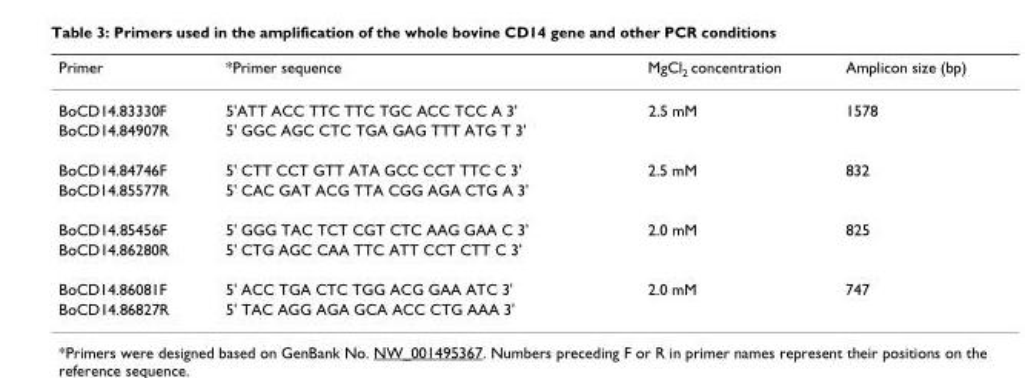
<table><thead><tr><td>Primer</td><td>*Primer sequence</td><td>MgCl<sub>2</sub> concentration</td><td>Amplicon size (bp)</td></tr></thead><tbody><tr><td>BoCD14.83330F</td><td>5&#x27;ATT ACC TTC TTC TGC ACC TCC A 3&#x27;</td><td>2.5 mM</td><td>1578</td></tr><tr><td>BoCD14.84907R</td><td>5&#x27; GGC AGC CTC TGA GAG TTT ATG T 3&#x27;</td><td></td><td></td></tr><tr><td>BoCD14.84746F</td><td>5&#x27; CTT CCT GTT ATA GCC CCT TTC C 3&#x27;</td><td>2.5 mM</td><td>832</td></tr><tr><td>BoCD14.85577R</td><td>5&#x27; CAC GAT ACG TTA CGG AGA CTG A 3&#x27;</td><td></td><td></td></tr><tr><td>BoCD14.85456F</td><td>5&#x27; GGG TAC TCT CGT CTC AAG GAA C 3&#x27;</td><td>2.0 mM</td><td>825</td></tr><tr><td>BoCD14.86280R</td><td>5&#x27; CTG AGC CAA TTC ATT CCT CTT C 3&#x27;</td><td></td><td></td></tr><tr><td>BoCD14.86081F</td><td>5&#x27; ACC TGA CTC TGG ACG GAA ATC 3&#x27;</td><td>2.0 mM</td><td>747</td></tr><tr><td>BoCD14.86827R</td><td>5&#x27; TAC AGG AGA GCA ACC CTG AAA 3&#x27;</td><td></td><td></td></tr></tbody></table>